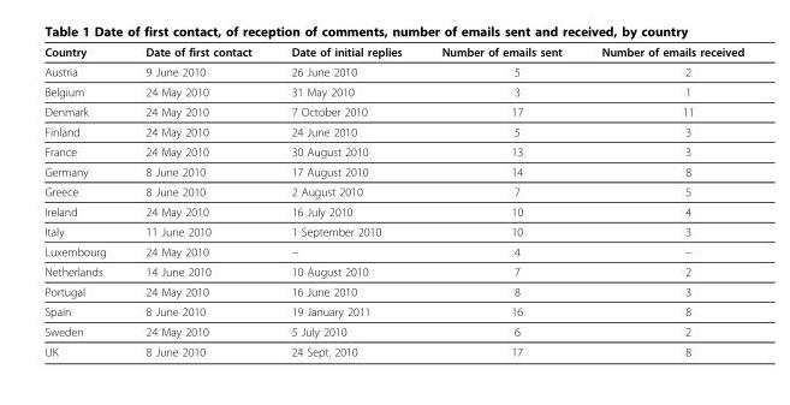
<table><thead><tr><td>Country</td><td>Date of first contact</td><td>Date of initial replies</td><td>Number of emails sent</td><td>Number of emails received</td></tr></thead><tbody><tr><td>Austria</td><td>9 June 2010</td><td>26 June 2010</td><td>5</td><td>2</td></tr><tr><td>Belgium</td><td>24 May 2010</td><td>31 May 2010</td><td>3</td><td>1</td></tr><tr><td>Denmark</td><td>24 May 2010</td><td>7 October 2010</td><td>17</td><td>11</td></tr><tr><td>Finland</td><td>24 May 2010</td><td>24 June 2010</td><td>5</td><td>3</td></tr><tr><td>France</td><td>24 May 2010</td><td>30 August 2010</td><td>13</td><td>3</td></tr><tr><td>Germany</td><td>8 June 2010</td><td>17 August 2010</td><td>14</td><td>8</td></tr><tr><td>Greece</td><td>8 June 2010</td><td>2 August 2010</td><td>7</td><td>5</td></tr><tr><td>Ireland</td><td>24 May 2010</td><td>16 July 2010</td><td>10</td><td>4</td></tr><tr><td>Italy</td><td>11 June 2010</td><td>1 September 2010</td><td>10</td><td>3</td></tr><tr><td>Luxembourg</td><td>24 May 2010</td><td>–</td><td>4</td><td>–</td></tr><tr><td>Netherlands</td><td>14 June 2010</td><td>10 August 2010</td><td>7</td><td>2</td></tr><tr><td>Portugal</td><td>24 May 2010</td><td>16 June 2010</td><td>8</td><td>3</td></tr><tr><td>Spain</td><td>8 June 2010</td><td>19 January 2011</td><td>16</td><td>8</td></tr><tr><td>Sweden</td><td>24 May 2010</td><td>5 July 2010</td><td>6</td><td>2</td></tr><tr><td>UK</td><td>8 June 2010</td><td>24 Sept. 2010</td><td>17</td><td>8</td></tr></tbody></table>